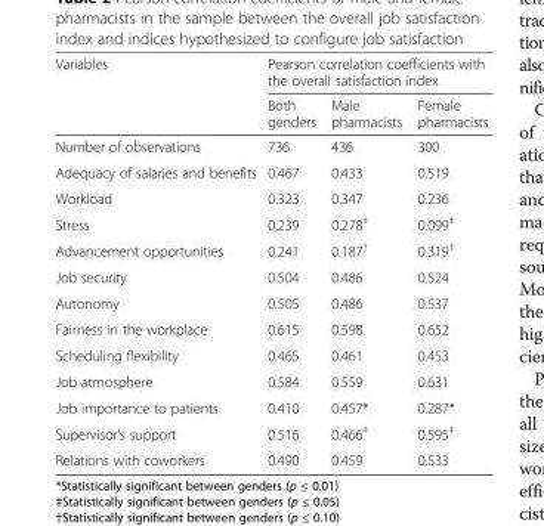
<table><thead><tr><td rowspan="2">Variables</td><td colspan="3">Pearson correlation coefficients with the overall satisfaction index</td></tr><tr><td>Both genders</td><td>Male pharmacists</td><td>Female pharmacists</td></tr></thead><tbody><tr><td>Number of observations</td><td>736</td><td>436</td><td>300</td></tr><tr><td>Adequacy of salaries and benefits</td><td>0.467</td><td>0.433</td><td>0.519</td></tr><tr><td>Workload</td><td>0.323</td><td>0.347</td><td>0.236</td></tr><tr><td>Stress</td><td>0.239</td><td>0.278<sup>‡</sup></td><td>0.099<sup>‡</sup></td></tr><tr><td>Advancement opportunities</td><td>0.241</td><td>0.187<sup>†</sup></td><td>0.319<sup>†</sup></td></tr><tr><td>Job security</td><td>0.504</td><td>0.486</td><td>0.524</td></tr><tr><td>Autonomy</td><td>0.505</td><td>0.486</td><td>0.537</td></tr><tr><td>Fairness in the workplace</td><td>0.615</td><td>0.598</td><td>0.652</td></tr><tr><td>Scheduling flexibility</td><td>0.465</td><td>0.461</td><td>0.453</td></tr><tr><td>Job atmosphere</td><td>0.584</td><td>0.559</td><td>0.631</td></tr><tr><td>Job importance to patients</td><td>0.410</td><td>0.457*</td><td>0.287*</td></tr><tr><td>Supervisor’s support</td><td>0.516</td><td>0.466<sup>‡</sup></td><td>0.595<sup>‡</sup></td></tr><tr><td>Relations with coworkers</td><td>0.490</td><td>0.459</td><td>0.533</td></tr></tbody></table>